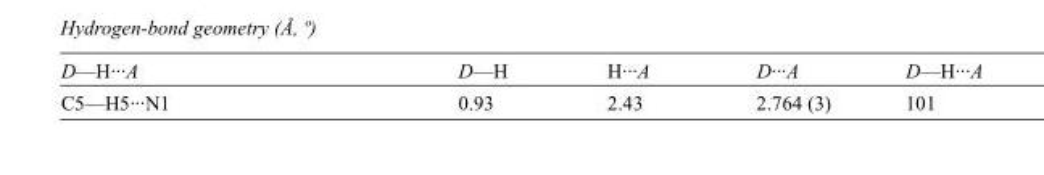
<table><tbody><tr><td>D—H···A</td><td>D—H</td><td>H···A</td><td>D···A</td><td>D—H···A</td></tr><tr><td>C5—H5···N1</td><td>0.93</td><td>2.43</td><td>2.764 (3)</td><td>101</td></tr></tbody></table>